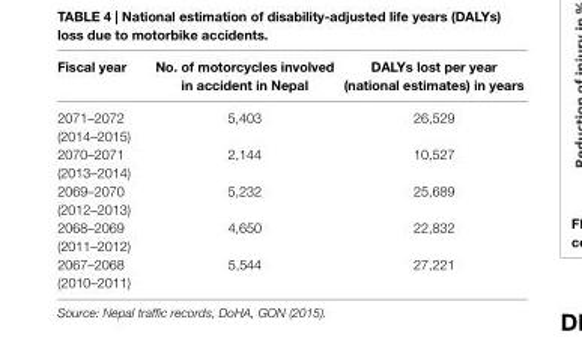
<table><thead><tr><td>Fiscal year</td><td>no. of motorcycles involved in accident in nepal</td><td>DalYs lost per year (national estimates) in years</td></tr></thead><tbody><tr><td>2071–2072 (2014–2015)</td><td>5,403</td><td>26,529</td></tr><tr><td>2070–2071 (2013–2014)</td><td>2,144</td><td>10,527</td></tr><tr><td>2069–2070 (2012–2013)</td><td>5,232</td><td>25,689</td></tr><tr><td>2068–2069 (2011–2012)</td><td>4,650</td><td>22,832</td></tr><tr><td>2067–2068 (2010–2011)</td><td>5,544</td><td>27,221</td></tr></tbody></table>